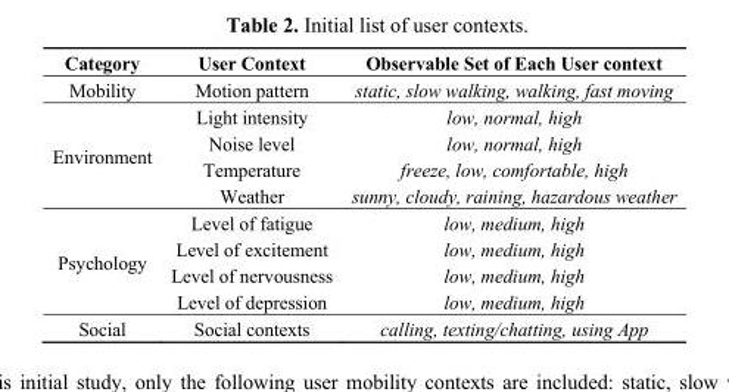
<table><thead><tr><td>Category</td><td>User Context</td><td>Observable Set of Each User context</td></tr></thead><tbody><tr><td>Mobility</td><td>Motion pattern</td><td>static, slow walking, walking, fast moving</td></tr><tr><td rowspan="4">Environment</td><td>Light intensity</td><td>low, normal, high</td></tr><tr><td>Noise level</td><td>low, normal, high</td></tr><tr><td>Temperature</td><td>freeze, low, comfortable, high</td></tr><tr><td>Weather</td><td>sunny, cloudy, raining, hazardous weather</td></tr><tr><td rowspan="4">Psychology</td><td>Level of fatigue</td><td>low, medium, high</td></tr><tr><td>Level of excitement</td><td>low, medium, high</td></tr><tr><td>Level of nervousness</td><td>low, medium, high</td></tr><tr><td>Level of depression</td><td>low, medium, high</td></tr><tr><td>Social</td><td>Social contexts</td><td>calling, texting/chatting, using App</td></tr></tbody></table>